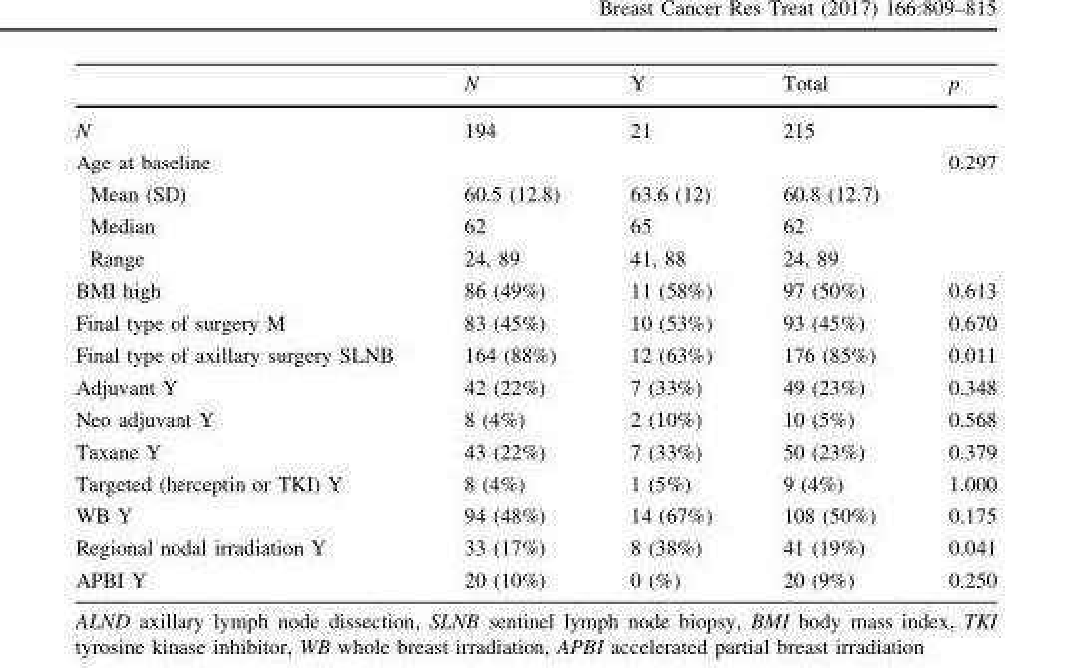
<table><thead><tr><td></td><td>N</td><td>Y</td><td>Total</td><td>p</td></tr></thead><tbody><tr><td>N</td><td>194</td><td>21</td><td>215</td><td></td></tr><tr><td>Age at baseline</td><td></td><td></td><td></td><td>0.297</td></tr><tr><td>Mean (SD)</td><td>60.5 (12.8)</td><td>63.6 (12)</td><td>60.8 (12.7)</td><td></td></tr><tr><td>Median</td><td>62</td><td>65</td><td>62</td><td></td></tr><tr><td>Range</td><td>24, 89</td><td>41, 88</td><td>24, 89</td><td></td></tr><tr><td>BMI high</td><td>86 (49%)</td><td>11 (58%)</td><td>97 (50%)</td><td>0.613</td></tr><tr><td>Final type of surgery M</td><td>83 (45%)</td><td>10 (53%)</td><td>93 (45%)</td><td>0.670</td></tr><tr><td>Final type of axillary surgery SLNB</td><td>164 (88%)</td><td>12 (63%)</td><td>176 (85%)</td><td>0.011</td></tr><tr><td>Adjuvant Y</td><td>42 (22%)</td><td>7 (33%)</td><td>49 (23%)</td><td>0.348</td></tr><tr><td>Neo adjuvant Y</td><td>8 (4%)</td><td>2 (10%)</td><td>10 (5%)</td><td>0.568</td></tr><tr><td>Taxane Y</td><td>43 (22%)</td><td>7 (33%)</td><td>50 (23%)</td><td>0.379</td></tr><tr><td>Targeted (herceptin or TKI) Y</td><td>8 (4%)</td><td>1 (5%)</td><td>9 (4%)</td><td>1.000</td></tr><tr><td>WB Y</td><td>94 (48%)</td><td>14 (67%)</td><td>108 (50%)</td><td>0.175</td></tr><tr><td>Regional nodal irradiation Y</td><td>33 (17%)</td><td>8 (38%)</td><td>41 (19%)</td><td>0.041</td></tr><tr><td>APBI Y</td><td>20 (10%)</td><td>0 (%)</td><td>20 (9%)</td><td>0.250</td></tr></tbody></table>